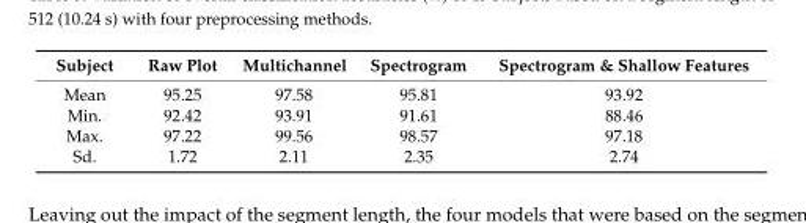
<table><thead><tr><td>Subject</td><td>Raw Plot</td><td>Multichannel</td><td>Spectrogram</td><td>Spectrogram &amp; Shallow Features</td></tr></thead><tbody><tr><td>Mean</td><td>95.25</td><td>97.58</td><td>95.81</td><td>93.92</td></tr><tr><td>Min.</td><td>92.42</td><td>93.91</td><td>91.61</td><td>88.46</td></tr><tr><td>Max.</td><td>97.22</td><td>99.56</td><td>98.57</td><td>97.18</td></tr><tr><td>Sd.</td><td>1.72</td><td>2.11</td><td>2.35</td><td>2.74</td></tr></tbody></table>